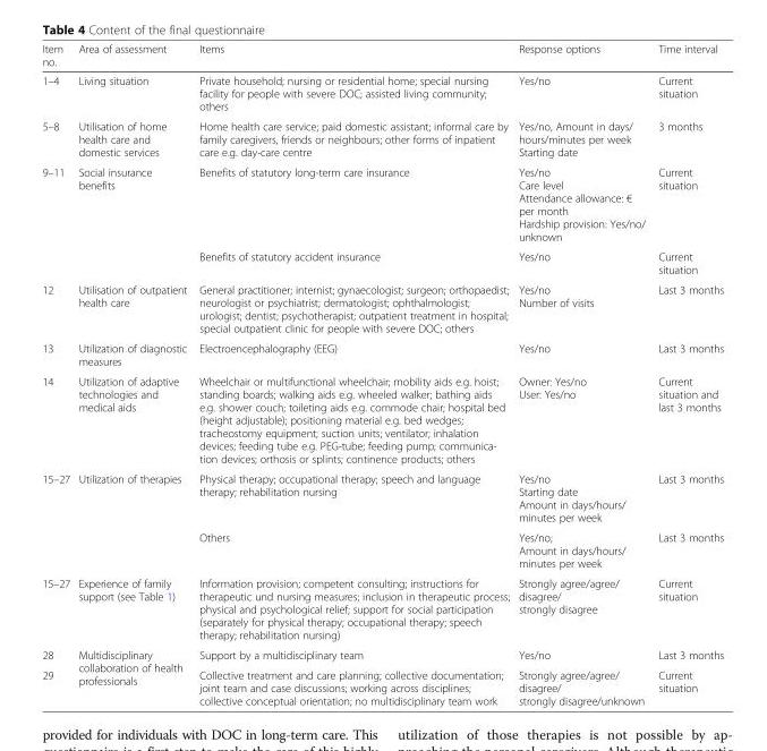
<table><thead><tr><td>Item no.</td><td>Area of assessment</td><td>Items</td><td>Response options</td><td>Time interval</td></tr></thead><tbody><tr><td>1–4</td><td>Living situation</td><td>Private household; nursing or residential home; special nursing facility for people with severe DOC; assisted living community; others</td><td>Yes/no</td><td>Current situation</td></tr><tr><td>5–8</td><td>Utilisation of home health care and domestic services</td><td>Home health care service; paid domestic assistant; informal care by family caregivers, friends or neighbours; other forms of inpatient care e.g. day-care centre</td><td>Yes/no, Amount in days/ hours/minutes per week Starting date</td><td>3 months</td></tr><tr><td rowspan="2">9–11</td><td rowspan="2">Social insurance benefits</td><td>Benefits of statutory long-term care insurance</td><td>Yes/no Care level Attendance allowance: € per month Hardship provision: Yes/no/ unknown</td><td>Current situation</td></tr><tr><td>Benefits of statutory accident insurance</td><td>Yes/no</td><td>Current situation</td></tr><tr><td>12</td><td>Utilisation of outpatient health care</td><td>General practitioner; internist; gynaecologist; surgeon; orthopaedist; neurologist or psychiatrist; dermatologist; ophthalmologist; urologist; dentist; psychotherapist; outpatient treatment in hospital; special outpatient clinic for people with severe DOC; others</td><td>Yes/no Number of visits</td><td>Last 3 months</td></tr><tr><td>13</td><td>Utilization of diagnostic measures</td><td>Electroencephalography (EEG)</td><td>Yes/no</td><td>Last 3 months</td></tr><tr><td>14</td><td>Utilization of adaptive technologies and medical aids</td><td>Wheelchair or multifunctional wheelchair; mobility aids e.g. hoist; standing boards; walking aids e.g. wheeled walker; bathing aids e.g. shower couch; toileting aids e.g. commode chair; hospital bed (height adjustable); positioning material e.g. bed wedges; tracheostomy equipment; suction units; ventilator; inhalation devices; feeding tube e.g. PEG-tube; feeding pump; communica- tion devices; orthosis or splints; continence products; others</td><td>Owner: Yes/no User: Yes/no</td><td>Current situation and last 3 months</td></tr><tr><td rowspan="2">15–27</td><td rowspan="2">Utilization of therapies</td><td>Physical therapy; occupational therapy; speech and language therapy; rehabilitation nursing</td><td>Yes/no Starting date Amount in days/hours/ minutes per week</td><td>Last 3 months</td></tr><tr><td>Others</td><td>Yes/no; Amount in days/hours/ minutes per week</td><td>Last 3 months</td></tr><tr><td>15–27</td><td>Experience of family support (see Table 1)</td><td>Information provision; competent consulting; instructions for therapeutic und nursing measures; inclusion in therapeutic process; physical and psychological relief; support for social participation (separately for physical therapy; occupational therapy; speech therapy; rehabilitation nursing)</td><td>Strongly agree/agree/ disagree/ strongly disagree</td><td>Current situation</td></tr><tr><td>28</td><td rowspan="2">Multidisciplinary collaboration of health professionals</td><td>Support by a multidisciplinary team</td><td>Yes/no</td><td>Last 3 months</td></tr><tr><td>29</td><td>Collective treatment and care planning; collective documentation; joint team and case discussions; working across disciplines; collective conceptual orientation; no multidisciplinary team work</td><td>Strongly agree/agree/ disagree/ strongly disagree/unknown</td><td>Current situation</td></tr></tbody></table>